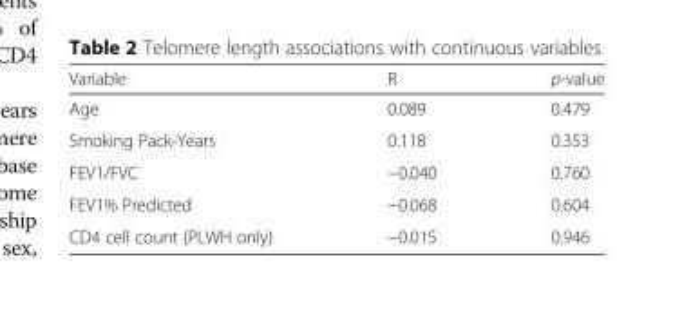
<table><thead><tr><td>Variable</td><td>R</td><td>p-value</td></tr></thead><tbody><tr><td>Age</td><td>0.089</td><td>0.479</td></tr><tr><td>Smoking Pack-Years</td><td>0.118</td><td>0.353</td></tr><tr><td>FEV1/FVC</td><td>−0.040</td><td>0.760</td></tr><tr><td>FEV1% Predicted</td><td>−0.068</td><td>0.604</td></tr><tr><td>CD4 cell count (PLWH only)</td><td>−0.015</td><td>0.946</td></tr></tbody></table>